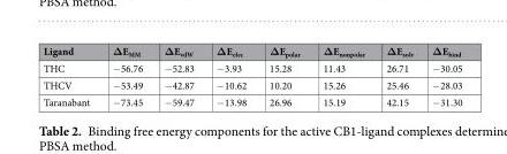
<table><thead><tr><td>Ligand</td><td>ΔE<sub>MM</sub></td><td>ΔE<sub>vdW</sub></td><td>ΔE<sub>elec</sub></td><td>ΔE<sub>polar</sub></td><td>ΔE<sub>nonpolar</sub></td><td>ΔE<sub>solv</sub></td><td>ΔE<sub>bind</sub></td></tr></thead><tbody><tr><td>THC</td><td>−56.76</td><td>−52.83</td><td>−3.93</td><td>15.28</td><td>11.43</td><td>26.71</td><td>−30.05</td></tr><tr><td>THCV</td><td>−53.49</td><td>−42.87</td><td>−10.62</td><td>10.20</td><td>15.26</td><td>25.46</td><td>−28.03</td></tr><tr><td>Taranabant</td><td>−73.45</td><td>−59.47</td><td>−13.98</td><td>26.96</td><td>15.19</td><td>42.15</td><td>−31.30</td></tr></tbody></table>